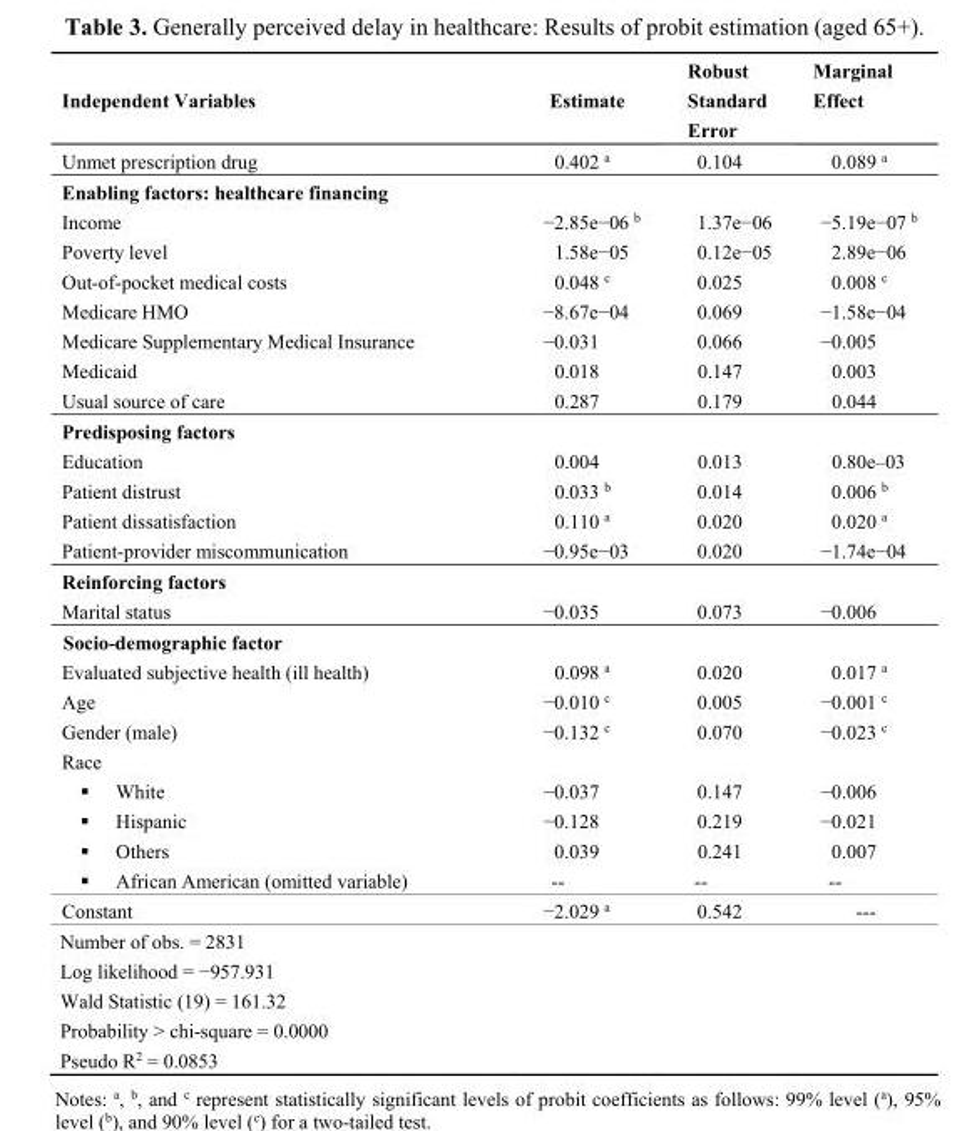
<table><thead><tr><td>Independent Variables</td><td>Estimate</td><td>Robust Standard Error</td><td>Marginal Effect</td></tr></thead><tbody><tr><td>Unmet prescription drug</td><td>0.402 <sup>a</sup></td><td>0.104</td><td>0.089 <sup>a</sup></td></tr><tr><td colspan="4">Enabling factors: healthcare financing</td></tr><tr><td>Income</td><td>−2.85e−06 <sup>b</sup></td><td>1.37e−06</td><td>−5.19e−07 <sup>b</sup></td></tr><tr><td>Poverty level</td><td>1.58e−05</td><td>0.12e−05</td><td>2.89e−06</td></tr><tr><td>Out-of-pocket medical costs</td><td>0.048 <sup>c</sup></td><td>0.025</td><td>0.008 <sup>c</sup></td></tr><tr><td>Medicare HMO</td><td>−8.67e−04</td><td>0.069</td><td>−1.58e−04</td></tr><tr><td>Medicare Supplementary Medical Insurance</td><td>−0.031</td><td>0.066</td><td>−0.005</td></tr><tr><td>Medicaid</td><td>0.018</td><td>0.147</td><td>0.003</td></tr><tr><td>Usual source of care</td><td>0.287</td><td>0.179</td><td>0.044</td></tr><tr><td colspan="4">Predisposing factors</td></tr><tr><td>Education</td><td>0.004</td><td>0.013</td><td>0.80e–03</td></tr><tr><td>Patient distrust</td><td>0.033 <sup>b</sup></td><td>0.014</td><td>0.006 <sup>b</sup></td></tr><tr><td>Patient dissatisfaction</td><td>0.110 <sup>a</sup></td><td>0.020</td><td>0.020 <sup>a</sup></td></tr><tr><td>Patient-provider miscommunication</td><td>−0.95e−03</td><td>0.020</td><td>−1.74e−04</td></tr><tr><td colspan="4">Reinforcing factors</td></tr><tr><td>Marital status</td><td>−0.035</td><td>0.073</td><td>−0.006</td></tr><tr><td colspan="4">Socio-demographic factor</td></tr><tr><td>Evaluated subjective health (ill health)</td><td>0.098 <sup>a</sup></td><td>0.020</td><td>0.017 <sup>a</sup></td></tr><tr><td>Age</td><td>−0.010 <sup>c</sup></td><td>0.005</td><td>−0.001 <sup>c</sup></td></tr><tr><td>Gender (male)</td><td>−0.132 <sup>c</sup></td><td>0.070</td><td>−0.023 <sup>c</sup></td></tr><tr><td colspan="4">Race</td></tr><tr><td>▪ White</td><td>−0.037</td><td>0.147</td><td>−0.006</td></tr><tr><td>▪ Hispanic</td><td>−0.128</td><td>0.219</td><td>−0.021</td></tr><tr><td>▪ Others</td><td>0.039</td><td>0.241</td><td>0.007</td></tr><tr><td>▪ African American (omitted variable)</td><td>--</td><td>--</td><td>--</td></tr><tr><td>Constant</td><td>−2.029 <sup>a</sup></td><td>0.542</td><td>---</td></tr><tr><td colspan="4">Number of obs. = 2831</td></tr><tr><td colspan="4">Log likelihood = −957.931</td></tr><tr><td colspan="4">Wald Statistic (19) = 161.32</td></tr><tr><td colspan="4">Probability &gt; chi-square = 0.0000</td></tr><tr><td>Pseudo R<sup>2</sup> = 0.0853</td><td></td><td></td><td></td></tr></tbody></table>